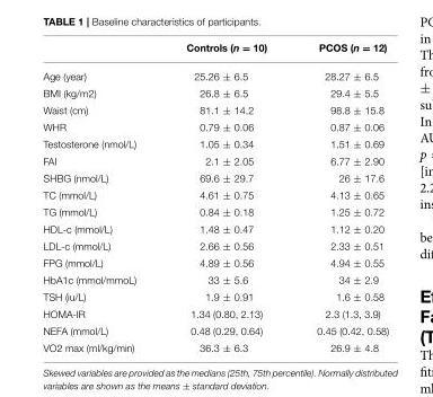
<table><thead><tr><td></td><td>Controls (n = 10)</td><td>PCOS (n = 12)</td></tr></thead><tbody><tr><td>Age (year)</td><td>25.26 ± 6.5</td><td>28.27 ± 6.5</td></tr><tr><td>BMI (kg/m2)</td><td>26.8 ± 6.5</td><td>29.4 ± 5.5</td></tr><tr><td>Waist (cm)</td><td>81.1 ± 14.2</td><td>98.8 ± 15.8</td></tr><tr><td>WHR</td><td>0.79 ± 0.06</td><td>0.87 ± 0.06</td></tr><tr><td>Testosterone (nmol/L)</td><td>1.05 ± 0.34</td><td>1.51 ± 0.69</td></tr><tr><td>FAI</td><td>2.1 ± 2.05</td><td>6.77 ± 2.90</td></tr><tr><td>SHBG (nmol/L)</td><td>69.6 ± 29.7</td><td>26 ± 17.6</td></tr><tr><td>TC (mmol/L)</td><td>4.61 ± 0.75</td><td>4.13 ± 0.65</td></tr><tr><td>TG (mmol/L)</td><td>0.84 ± 0.18</td><td>1.25 ± 0.72</td></tr><tr><td>HDL-c (mmol/L)</td><td>1.48 ± 0.47</td><td>1.12 ± 0.20</td></tr><tr><td>LDL-c (mmol/L)</td><td>2.66 ± 0.56</td><td>2.33 ± 0.51</td></tr><tr><td>FPG (mmol/L)</td><td>4.89 ± 0.56</td><td>4.94 ± 0.55</td></tr><tr><td>HbA1c (mmol/mmoL)</td><td>33 ± 5.6</td><td>34 ± 2.9</td></tr><tr><td>TSH (iu/L)</td><td>1.9 ± 0.91</td><td>1.6 ± 0.58</td></tr><tr><td>HOMA-IR</td><td>1.34 (0.80, 2.13)</td><td>2.3 (1.3, 3.9)</td></tr><tr><td>NEFA (mmol/L)</td><td>0.48 (0.29, 0.64)</td><td>0.45 (0.42, 0.58)</td></tr><tr><td>VO2 max (ml/kg/min)</td><td>36.3 ± 6.3</td><td>26.9 ± 4.8</td></tr></tbody></table>